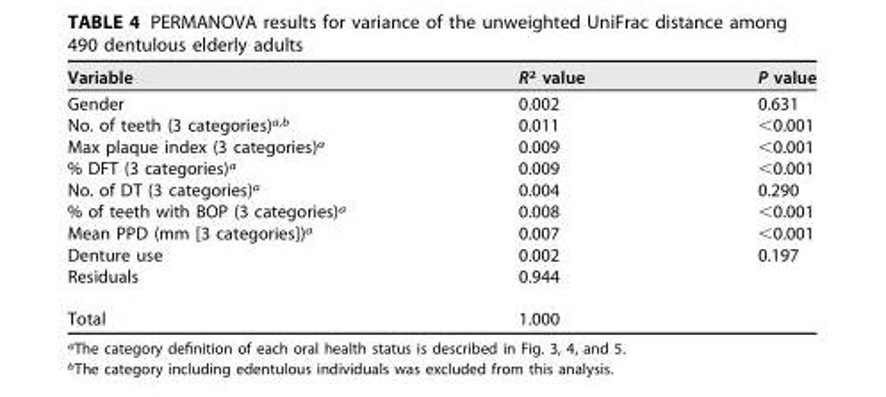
<table><thead><tr><td>Variable</td><td>R<sup>2</sup> value</td><td>P value</td></tr></thead><tbody><tr><td>Gender</td><td>0.002</td><td>0.631</td></tr><tr><td>No. of teeth (3 categories)<sup>a,b</sup></td><td>0.011</td><td>&lt;0.001</td></tr><tr><td>Max plaque index (3 categories)<sup>a</sup></td><td>0.009</td><td>&lt;0.001</td></tr><tr><td>% DFT (3 categories)<sup>a</sup></td><td>0.009</td><td>&lt;0.001</td></tr><tr><td>No. of DT (3 categories)<sup>a</sup></td><td>0.004</td><td>0.290</td></tr><tr><td>% of teeth with BOP (3 categories)<sup>a</sup></td><td>0.008</td><td>&lt;0.001</td></tr><tr><td>Mean PPD (mm [3 categories])<sup>a</sup></td><td>0.007</td><td>&lt;0.001</td></tr><tr><td>Denture use</td><td>0.002</td><td>0.197</td></tr><tr><td>Residuals</td><td>0.944</td><td></td></tr><tr><td>Total</td><td>1.000</td><td></td></tr></tbody></table>